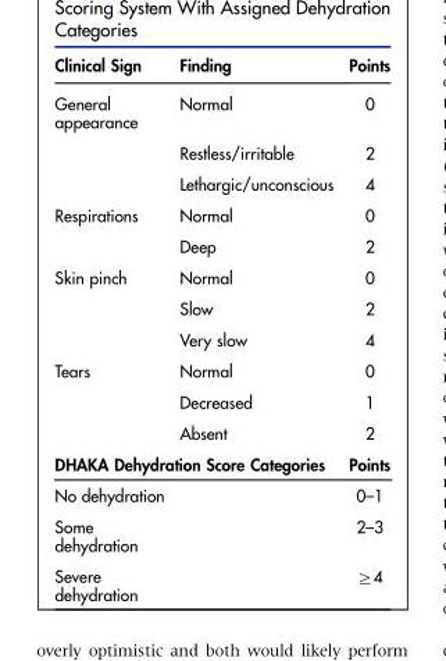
<table><thead><tr><td>Clinical Sign</td><td>Finding</td><td>Points</td></tr></thead><tbody><tr><td rowspan="3">General appearance</td><td>Normal</td><td>0</td></tr><tr><td>Restless/irritable</td><td>2</td></tr><tr><td>Lethargic/unconscious</td><td>4</td></tr><tr><td rowspan="2">Respirations</td><td>Normal</td><td>0</td></tr><tr><td>Deep</td><td>2</td></tr><tr><td rowspan="3">Skin pinch</td><td>Normal</td><td>0</td></tr><tr><td>Slow</td><td>2</td></tr><tr><td>Very slow</td><td>4</td></tr><tr><td rowspan="3">Tears</td><td>Normal</td><td>0</td></tr><tr><td>Decreased</td><td>1</td></tr><tr><td>Absent</td><td>2</td></tr><tr><td colspan="2">DHAKA Dehydration Score Categories</td><td>Points</td></tr><tr><td>No dehydration</td><td></td><td>0–1</td></tr><tr><td>Some dehydration</td><td></td><td>2–3</td></tr><tr><td>Severe dehydration</td><td></td><td>≥4</td></tr></tbody></table>